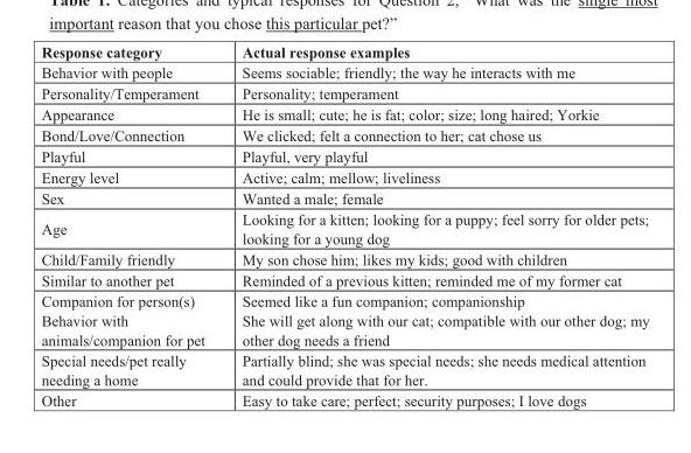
<table><thead><tr><td>Response category</td><td>Actual response examples</td></tr></thead><tbody><tr><td>Behavior with people</td><td>Seems sociable; friendly; the way he interacts with me</td></tr><tr><td>Personality/Temperament</td><td>Personality; temperament</td></tr><tr><td>Appearance</td><td>He is small; cute; he is fat; color; size; long haired; Yorkie</td></tr><tr><td>Bond/Love/Connection</td><td>We clicked; felt a connection to her; cat chose us</td></tr><tr><td>Playful</td><td>Playful, very playful</td></tr><tr><td>Energy level</td><td>Active; calm; mellow; liveliness</td></tr><tr><td>Sex</td><td>Wanted a male; female</td></tr><tr><td>Age</td><td>Looking for a kitten; looking for a puppy; feel sorry for older pets; looking for a young dog</td></tr><tr><td>Child/Family friendly</td><td>My son chose him; likes my kids; good with children</td></tr><tr><td>Similar to another pet</td><td>Reminded of a previous kitten; reminded me of my former cat</td></tr><tr><td>Companion for person(s) Behavior with animals/companion for pet</td><td>Seemed like a fun companion; companionship She will get along with our cat; compatible with our other dog; my other dog needs a friend</td></tr><tr><td>Special needs/pet really needing a home</td><td>Partially blind; she was special needs; she needs medical attention and could provide that for her.</td></tr><tr><td>Other</td><td>Easy to take care; perfect; security purposes; I love dogs</td></tr></tbody></table>